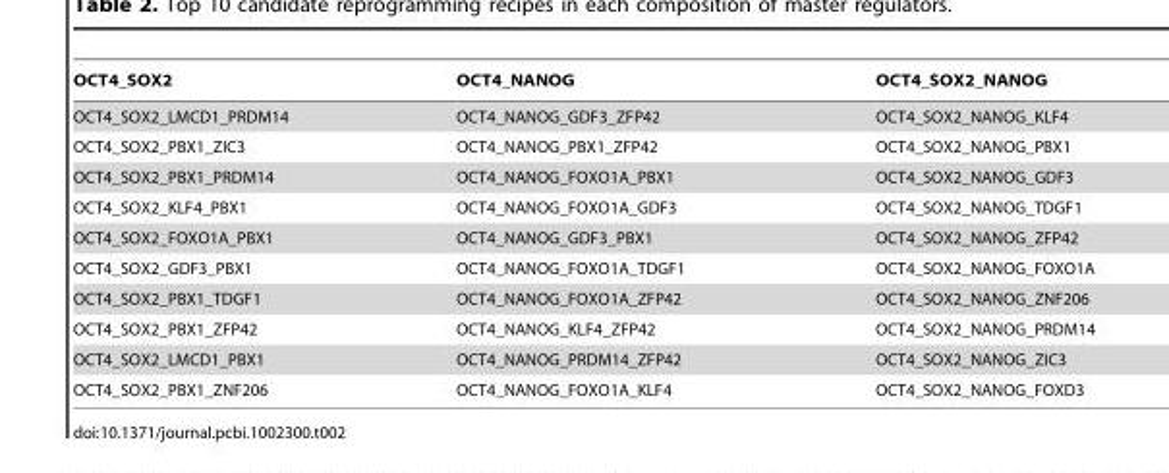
<table><thead><tr><td>OCT4_SOX2</td><td>OCT4_NANOG</td><td>OCT4_SOX2_NANOG</td></tr></thead><tbody><tr><td>OCT4_SOX2_LMCD1_PRDM14</td><td>OCT4_NANOG_GDF3_ZFP42</td><td>OCT4_SOX2_NANOG_KLF4</td></tr><tr><td>OCT4_SOX2_PBX1_ZIC3</td><td>OCT4_NANOG_PBX1_ZFP42</td><td>OCT4_SOX2_NANOG_PBX1</td></tr><tr><td>OCT4_SOX2_PBX1_PRDM14</td><td>OCT4_NANOG_FOXO1A_PBX1</td><td>OCT4_SOX2_NANOG_GDF3</td></tr><tr><td>OCT4_SOX2_KLF4_PBX1</td><td>OCT4_NANOG_FOXO1A_GDF3</td><td>OCT4_SOX2_NANOG_TDGF1</td></tr><tr><td>OCT4_SOX2_FOXO1A_PBX1</td><td>OCT4_NANOG_GDF3_PBX1</td><td>OCT4_SOX2_NANOG_ZFP42</td></tr><tr><td>OCT4_SOX2_GDF3_PBX1</td><td>OCT4_NANOG_FOXO1A_TDGF1</td><td>OCT4_SOX2_NANOG_FOXO1A</td></tr><tr><td>OCT4_SOX2_PBX1_TDGF1</td><td>OCT4_NANOG_FOXO1A_ZFP42</td><td>OCT4_SOX2_NANOG_ZNF206</td></tr><tr><td>OCT4_SOX2_PBX1_ZFP42</td><td>OCT4_NANOG_KLF4_ZFP42</td><td>OCT4_SOX2_NANOG_PRDM14</td></tr><tr><td>OCT4_SOX2_LMCD1_PBX1</td><td>OCT4_NANOG_PRDM14_ZFP42</td><td>OCT4_SOX2_NANOG_ZIC3</td></tr><tr><td>OCT4_SOX2_PBX1_ZNF206</td><td>OCT4_NANOG_FOXO1A_KLF4</td><td>OCT4_SOX2_NANOG_FOXD3</td></tr></tbody></table>